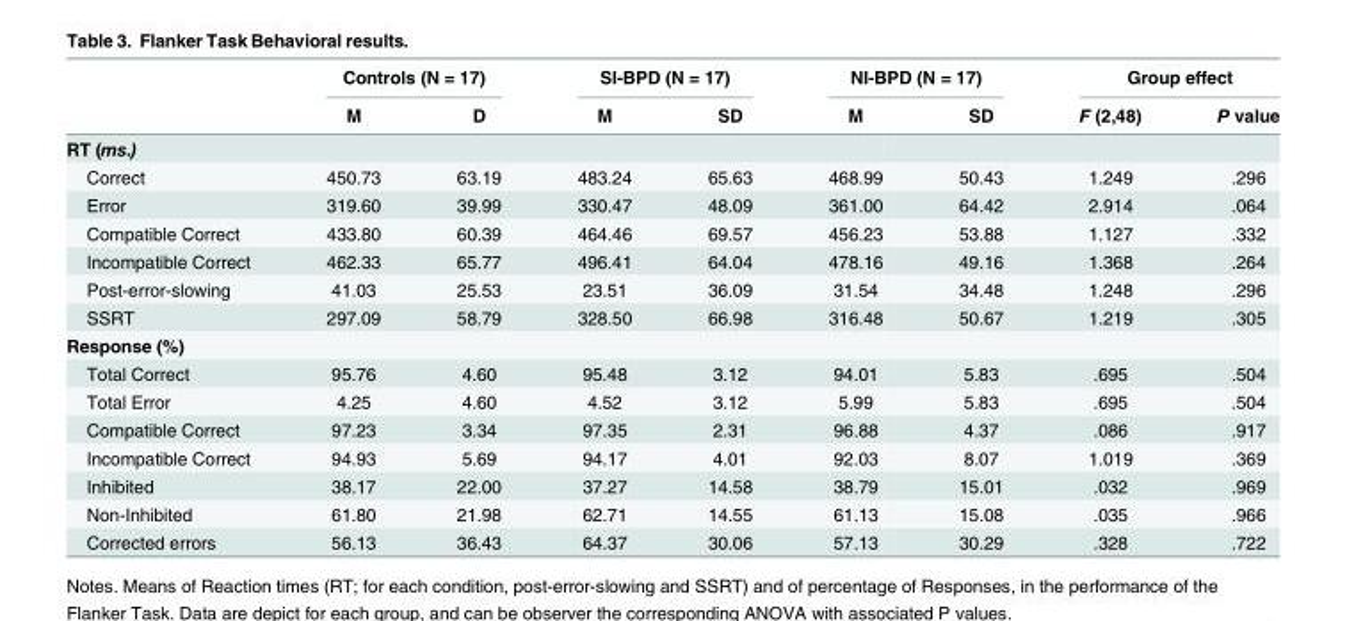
<table><thead><tr><td rowspan="2"></td><td colspan="2">Controls (N = 17)</td><td colspan="2">SI-BPD (N = 17)</td><td colspan="2">NI-BPD (N = 17)</td><td colspan="2">Group effect</td></tr><tr><td>M</td><td>D</td><td>M</td><td>SD</td><td>M</td><td>SD</td><td>F (2,48)</td><td>P value</td></tr></thead><tbody><tr><td colspan="9">RT (ms.)</td></tr><tr><td>Correct</td><td>450.73</td><td>63.19</td><td>483.24</td><td>65.63</td><td>468.99</td><td>50.43</td><td>1.249</td><td>.296</td></tr><tr><td>Error</td><td>319.60</td><td>39.99</td><td>330.47</td><td>48.09</td><td>361.00</td><td>64.42</td><td>2.914</td><td>.064</td></tr><tr><td>Compatible Correct</td><td>433.80</td><td>60.39</td><td>464.46</td><td>69.57</td><td>456.23</td><td>53.88</td><td>1.127</td><td>.332</td></tr><tr><td>Incompatible Correct</td><td>462.33</td><td>65.77</td><td>496.41</td><td>64.04</td><td>478.16</td><td>49.16</td><td>1.368</td><td>.264</td></tr><tr><td>Post-error-slowing</td><td>41.03</td><td>25.53</td><td>23.51</td><td>36.09</td><td>31.54</td><td>34.48</td><td>1.248</td><td>.296</td></tr><tr><td>SSRT</td><td>297.09</td><td>58.79</td><td>328.50</td><td>66.98</td><td>316.48</td><td>50.67</td><td>1.219</td><td>.305</td></tr><tr><td colspan="9">Response (%)</td></tr><tr><td>Total Correct</td><td>95.76</td><td>4.60</td><td>95.48</td><td>3.12</td><td>94.01</td><td>5.83</td><td>.695</td><td>.504</td></tr><tr><td>Total Error</td><td>4.25</td><td>4.60</td><td>4.52</td><td>3.12</td><td>5.99</td><td>5.83</td><td>.695</td><td>.504</td></tr><tr><td>Compatible Correct</td><td>97.23</td><td>3.34</td><td>97.35</td><td>2.31</td><td>96.88</td><td>4.37</td><td>.086</td><td>.917</td></tr><tr><td>Incompatible Correct</td><td>94.93</td><td>5.69</td><td>94.17</td><td>4.01</td><td>92.03</td><td>8.07</td><td>1.019</td><td>.369</td></tr><tr><td>Inhibited</td><td>38.17</td><td>22.00</td><td>37.27</td><td>14.58</td><td>38.79</td><td>15.01</td><td>.032</td><td>.969</td></tr><tr><td>Non-Inhibited</td><td>61.80</td><td>21.98</td><td>62.71</td><td>14.55</td><td>61.13</td><td>15.08</td><td>.035</td><td>.966</td></tr><tr><td>Corrected errors</td><td>56.13</td><td>36.43</td><td>64.37</td><td>30.06</td><td>57.13</td><td>30.29</td><td>.328</td><td>.722</td></tr></tbody></table>